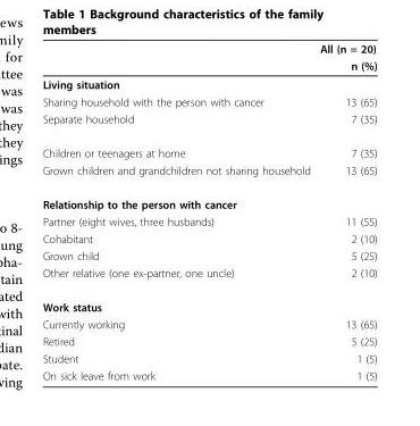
<table><thead><tr><td rowspan="2"></td><td rowspan="2">All (n = 20) n (%)</td></tr><tr></tr></thead><tbody><tr><td colspan="2">Living situation</td></tr><tr><td>Sharing household with the person with cancer</td><td>13 (65)</td></tr><tr><td>Separate household</td><td>7 (35)</td></tr><tr><td>Children or teenagers at home</td><td>7 (35)</td></tr><tr><td>Grown children and grandchildren not sharing household</td><td>13 (65)</td></tr><tr><td colspan="2">Relationship to the person with cancer</td></tr><tr><td>Partner (eight wives, three husbands)</td><td>11 (55)</td></tr><tr><td>Cohabitant</td><td>2 (10)</td></tr><tr><td>Grown child</td><td>5 (25)</td></tr><tr><td>Other relative (one ex-partner, one uncle)</td><td>2 (10)</td></tr><tr><td colspan="2">Work status</td></tr><tr><td>Currently working</td><td>13 (65)</td></tr><tr><td>Retired</td><td>5 (25)</td></tr><tr><td>Student</td><td>1 (5)</td></tr><tr><td>On sick leave from work</td><td>1 (5)</td></tr></tbody></table>